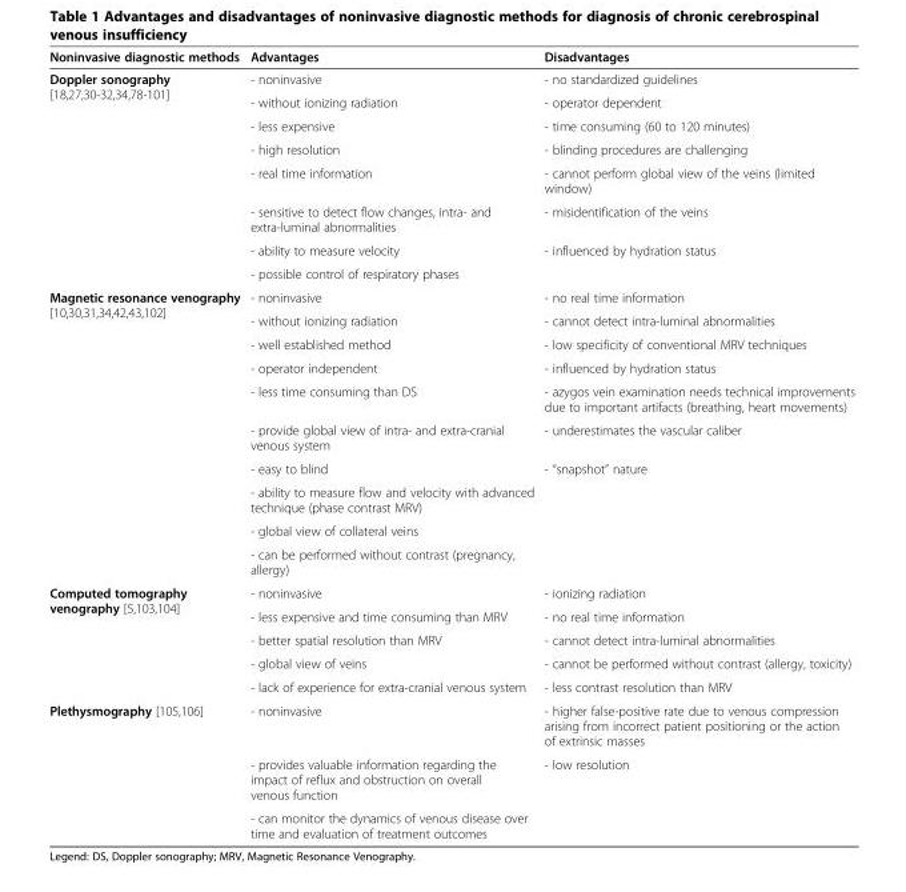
<table><thead><tr><td>Noninvasive diagnostic methods</td><td>Advantages</td><td>Disadvantages</td></tr></thead><tbody><tr><td rowspan="8">Doppler sonography [18,27,30-32,34,78-101]</td><td>- noninvasive</td><td>- no standardized guidelines</td></tr><tr><td>- without ionizing radiation</td><td>- operator dependent</td></tr><tr><td>- less expensive</td><td>- time consuming (60 to 120 minutes)</td></tr><tr><td>- high resolution</td><td>- blinding procedures are challenging</td></tr><tr><td>- real time information</td><td>- cannot perform global view of the veins (limited window)</td></tr><tr><td>- sensitive to detect flow changes, intra- and extra-luminal abnormalities</td><td>- misidentification of the veins</td></tr><tr><td>- ability to measure velocity</td><td>- influenced by hydration status</td></tr><tr><td>- possible control of respiratory phases</td><td></td></tr><tr><td rowspan="10">Magnetic resonance venography [10,30,31,34,42,43,102]</td><td>- noninvasive</td><td>- no real time information</td></tr><tr><td>- without ionizing radiation</td><td>- cannot detect intra-luminal abnormalities</td></tr><tr><td>- well established method</td><td>- low specificity of conventional MRV techniques</td></tr><tr><td>- operator independent</td><td>- influenced by hydration status</td></tr><tr><td>- less time consuming than DS</td><td>- azygos vein examination needs technical improvements due to important artifacts (breathing, heart movements)</td></tr><tr><td>- provide global view of intra- and extra-cranial venous system</td><td>- underestimates the vascular caliber</td></tr><tr><td>- easy to blind</td><td>- “snapshot” nature</td></tr><tr><td>- ability to measure flow and velocity with advanced technique (phase contrast MRV)</td><td rowspan="3"></td></tr><tr><td>- global view of collateral veins</td></tr><tr><td>- can be performed without contrast (pregnancy, allergy)</td></tr><tr><td rowspan="5">Computed tomography venography [5,103,104]</td><td>- noninvasive</td><td>- ionizing radiation</td></tr><tr><td>- less expensive and time consuming than MRV</td><td>- no real time information</td></tr><tr><td>- better spatial resolution than MRV</td><td>- cannot detect intra-luminal abnormalities</td></tr><tr><td>- global view of veins</td><td>- cannot be performed without contrast (allergy, toxicity)</td></tr><tr><td>- lack of experience for extra-cranial venous system</td><td>- less contrast resolution than MRV</td></tr><tr><td rowspan="3">Plethysmography [105,106]</td><td>- noninvasive</td><td>- higher false-positive rate due to venous compression arising from incorrect patient positioning or the action of extrinsic masses</td></tr><tr><td>- provides valuable information regarding the impact of reflux and obstruction on overall venous function</td><td>- low resolution</td></tr><tr><td>- can monitor the dynamics of venous disease over time and evaluation of treatment outcomes</td><td></td></tr></tbody></table>